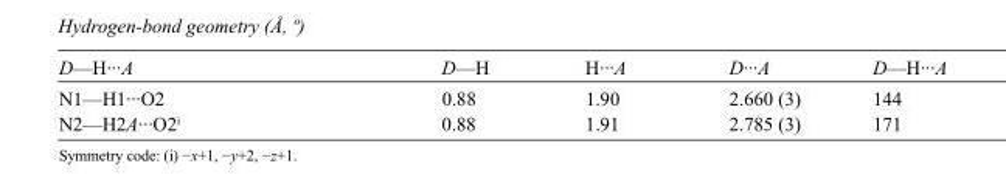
<table><tbody><tr><td>D—H···A</td><td>D—H</td><td>H···A</td><td>D···A</td><td>D—H···A</td></tr><tr><td>N1—H1···O2</td><td>0.88</td><td>1.90</td><td>2.660 (3)</td><td>144</td></tr><tr><td>N2—H2A···O2<sup>i</sup></td><td>0.88</td><td>1.91</td><td>2.785 (3)</td><td>171</td></tr></tbody></table>